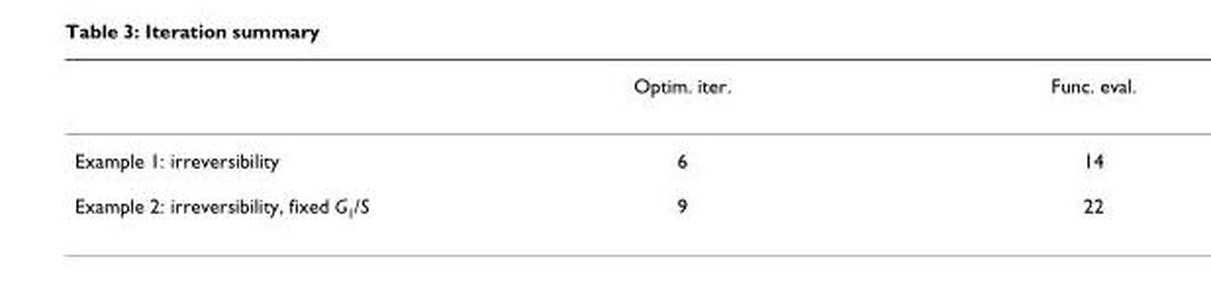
<table><thead><tr><td></td><td>Optim. iter.</td><td>Func. eval.</td></tr></thead><tbody><tr><td>Example 1: irreversibility</td><td>6</td><td>14</td></tr><tr><td>Example 2: irreversibility, fixed G<sub>1</sub>/S</td><td>9</td><td>22</td></tr></tbody></table>